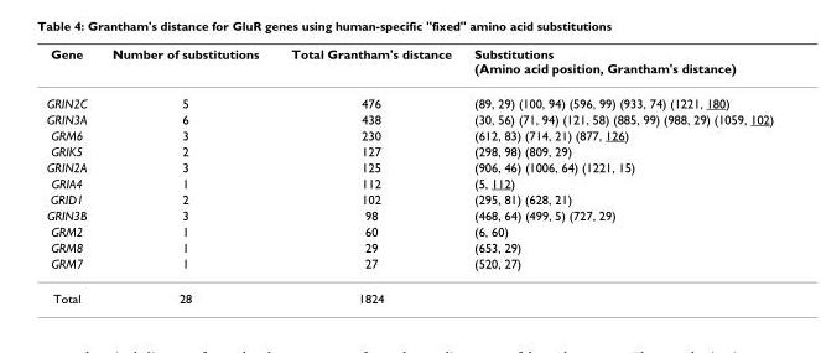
<table><thead><tr><td>Gene</td><td>Number of substitutions</td><td>Total Grantham&#x27;s distance</td><td>Substitutions (Amino acid position, Grantham&#x27;s distance)</td></tr></thead><tbody><tr><td>GRIN2C</td><td>5</td><td>476</td><td>(89, 29) (100, 94) (596, 99) (933, 74) (1221, 180)</td></tr><tr><td>GRIN3A</td><td>6</td><td>438</td><td>(30, 56) (71, 94) (121, 58) (885, 99) (988, 29) (1059, 102)</td></tr><tr><td>GRM6</td><td>3</td><td>230</td><td>(612, 83) (714, 21) (877, 126)</td></tr><tr><td>GRIK5</td><td>2</td><td>127</td><td>(298, 98) (809, 29)</td></tr><tr><td>GRIN2A</td><td>3</td><td>125</td><td>(906, 46) (1006, 64) (1221, 15)</td></tr><tr><td>GRIA4</td><td>1</td><td>112</td><td>(5, 112)</td></tr><tr><td>GRID1</td><td>2</td><td>102</td><td>(295, 81) (628, 21)</td></tr><tr><td>GRIN3B</td><td>3</td><td>98</td><td>(468, 64) (499, 5) (727, 29)</td></tr><tr><td>GRM2</td><td>1</td><td>60</td><td>(6, 60)</td></tr><tr><td>GRM8</td><td>1</td><td>29</td><td>(653, 29)</td></tr><tr><td>GRM7</td><td>1</td><td>27</td><td>(520, 27)</td></tr><tr><td>Total</td><td>28</td><td>1824</td><td></td></tr></tbody></table>